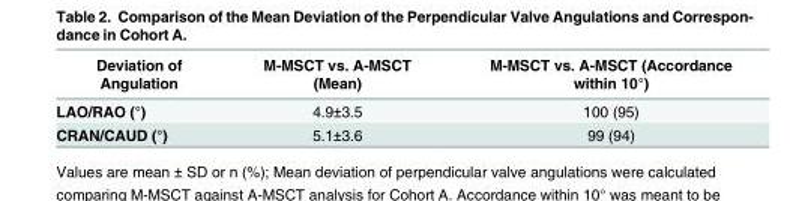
<table><thead><tr><td>Deviation of Angulation</td><td>M-MSCT vs. A-MSCT (Mean)</td><td>M-MSCT vs. A-MSCT (Accordance within 10°)</td></tr></thead><tbody><tr><td>LAO/RAO (°)</td><td>4.9±3.5</td><td>100 (95)</td></tr><tr><td>CRAN/CAUD (°)</td><td>5.1±3.6</td><td>99 (94)</td></tr></tbody></table>